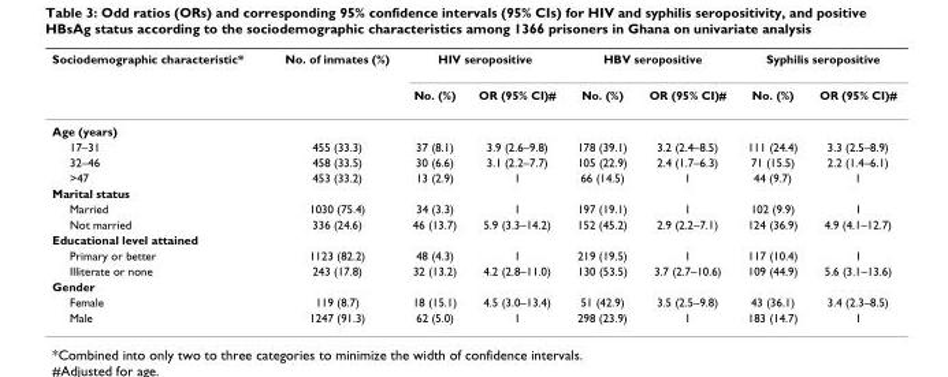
<table><thead><tr><td rowspan="2">Sociodemographic characteristic*</td><td rowspan="2">No. of inmates (%)</td><td colspan="2">HIV seropositive</td><td colspan="2">HBV seropositive</td><td colspan="2">Syphilis seropositive</td></tr><tr><td>No. (%)</td><td>OR (95% CI)#</td><td>No. (%)</td><td>OR (95% CI)#</td><td>No. (%)</td><td>OR (95% CI)#</td></tr></thead><tbody><tr><td colspan="8">Age (years)</td></tr><tr><td>17–31</td><td>455 (33.3)</td><td>37 (8.1)</td><td>3.9 (2.6–9.8)</td><td>178 (39.1)</td><td>3.2 (2.4–8.5)</td><td>111 (24.4)</td><td>3.3 (2.5–8.9)</td></tr><tr><td>32–46</td><td>458 (33.5)</td><td>30 (6.6)</td><td>3.1 (2.2–7.7)</td><td>105 (22.9)</td><td>2.4 (1.7–6.3)</td><td>71 (15.5)</td><td>2.2 (1.4–6.1)</td></tr><tr><td>&gt;47</td><td>453 (33.2)</td><td>13 (2.9)</td><td>1</td><td>66 (14.5)</td><td>1</td><td>44 (9.7)</td><td>1</td></tr><tr><td colspan="8">Marital status</td></tr><tr><td>Married</td><td>1030 (75.4)</td><td>34 (3.3)</td><td>1</td><td>197 (19.1)</td><td>1</td><td>102 (9.9)</td><td>1</td></tr><tr><td>Not married</td><td>336 (24.6)</td><td>46 (13.7)</td><td>5.9 (3.3–14.2)</td><td>152 (45.2)</td><td>2.9 (2.2–7.1)</td><td>124 (36.9)</td><td>4.9 (4.1–12.7)</td></tr><tr><td colspan="8">Educational level attained</td></tr><tr><td>Primary or better</td><td>1123 (82.2)</td><td>48 (4.3)</td><td>1</td><td>219 (19.5)</td><td>1</td><td>117 (10.4)</td><td>1</td></tr><tr><td>Illiterate or none</td><td>243 (17.8)</td><td>32 (13.2)</td><td>4.2 (2.8–11.0)</td><td>130 (53.5)</td><td>3.7 (2.7–10.6)</td><td>109 (44.9)</td><td>5.6 (3.1–13.6)</td></tr><tr><td colspan="8">Gender</td></tr><tr><td>Female</td><td>119 (8.7)</td><td>18 (15.1)</td><td>4.5 (3.0–13.4)</td><td>51 (42.9)</td><td>3.5 (2.5–9.8)</td><td>43 (36.1)</td><td>3.4 (2.3–8.5)</td></tr><tr><td>Male</td><td>1247 (91.3)</td><td>62 (5.0)</td><td>1</td><td>298 (23.9)</td><td>1</td><td>183 (14.7)</td><td>1</td></tr></tbody></table>